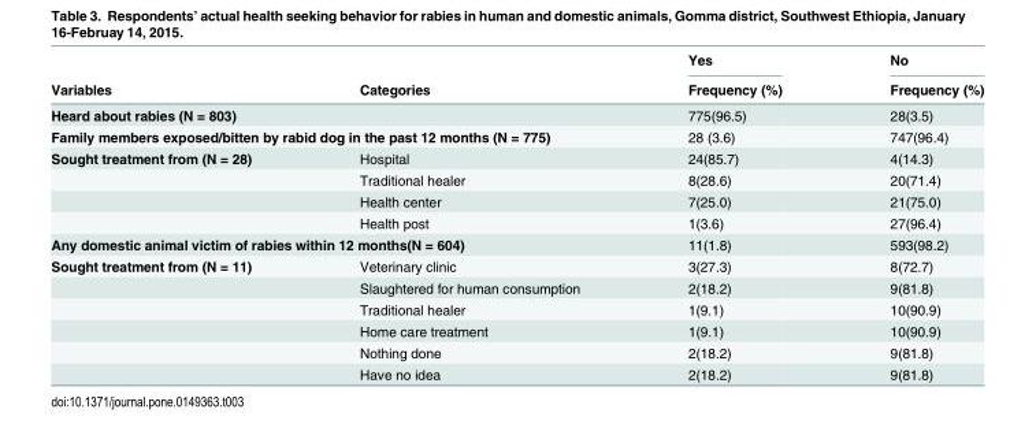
<table><thead><tr><td rowspan="2">Variables</td><td rowspan="2">Categories</td><td rowspan="2">Yes Frequency (%)</td><td rowspan="2">No Frequency (%)</td></tr><tr></tr></thead><tbody><tr><td colspan="2">Heard about rabies (N = 803)</td><td>775(96.5)</td><td>28(3.5)</td></tr><tr><td colspan="2">Family members exposed/bitten by rabid dog in the past 12 months (N = 775)</td><td>28 (3.6)</td><td>747(96.4)</td></tr><tr><td rowspan="4">Sought treatment from (N = 28)</td><td>Hospital</td><td>24(85.7)</td><td>4(14.3)</td></tr><tr><td>Traditional healer</td><td>8(28.6)</td><td>20(71.4)</td></tr><tr><td>Health center</td><td>7(25.0)</td><td>21(75.0)</td></tr><tr><td>Health post</td><td>1(3.6)</td><td>27(96.4)</td></tr><tr><td colspan="2">Any domestic animal victim of rabies within 12 months(N = 604)</td><td>11(1.8)</td><td>593(98.2)</td></tr><tr><td rowspan="6">Sought treatment from (N = 11)</td><td>Veterinary clinic</td><td>3(27.3)</td><td>8(72.7)</td></tr><tr><td>Slaughtered for human consumption</td><td>2(18.2)</td><td>9(81.8)</td></tr><tr><td>Traditional healer</td><td>1(9.1)</td><td>10(90.9)</td></tr><tr><td>Home care treatment</td><td>1(9.1)</td><td>10(90.9)</td></tr><tr><td>Nothing done</td><td>2(18.2)</td><td>9(81.8)</td></tr><tr><td>Have no idea</td><td>2(18.2)</td><td>9(81.8)</td></tr></tbody></table>